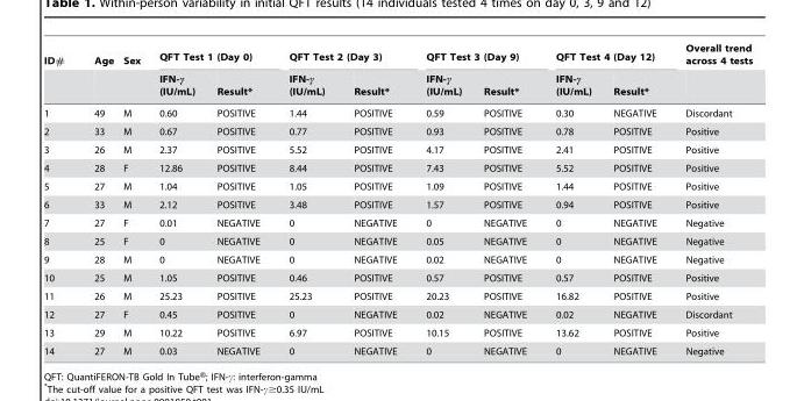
<table><thead><tr><td rowspan="2">ID#</td><td rowspan="2">Age</td><td rowspan="2">Sex</td><td colspan="2">QFT Test 1 (Day 0)</td><td colspan="2">QFT Test 2 (Day 3)</td><td colspan="2">QFT Test 3 (Day 9)</td><td colspan="2">QFT Test 4 (Day 12)</td><td rowspan="2">Overall trend across 4 tests</td></tr><tr><td>IFN-γ (IU/mL)</td><td>Result*</td><td>IFN-γ (IU/mL)</td><td>Result*</td><td>IFN-γ (IU/mL)</td><td>Result*</td><td>IFN-γ (IU/mL)</td><td>Result*</td></tr></thead><tbody><tr><td>1</td><td>49</td><td>M</td><td>0.60</td><td>POSITIVE</td><td>1.44</td><td>POSITIVE</td><td>0.59</td><td>POSITIVE</td><td>0.30</td><td>NEGATIVE</td><td>Discordant</td></tr><tr><td>2</td><td>33</td><td>M</td><td>0.67</td><td>POSITIVE</td><td>0.77</td><td>POSITIVE</td><td>0.93</td><td>POSITIVE</td><td>0.78</td><td>POSITIVE</td><td>Positive</td></tr><tr><td>3</td><td>26</td><td>M</td><td>2.37</td><td>POSITIVE</td><td>5.52</td><td>POSITIVE</td><td>4.17</td><td>POSITIVE</td><td>2.41</td><td>POSITIVE</td><td>Positive</td></tr><tr><td>4</td><td>28</td><td>F</td><td>12.86</td><td>POSITIVE</td><td>8.44</td><td>POSITIVE</td><td>7.43</td><td>POSITIVE</td><td>5.52</td><td>POSITIVE</td><td>Positive</td></tr><tr><td>5</td><td>27</td><td>M</td><td>1.04</td><td>POSITIVE</td><td>1.05</td><td>POSITIVE</td><td>1.09</td><td>POSITIVE</td><td>1.44</td><td>POSITIVE</td><td>Positive</td></tr><tr><td>6</td><td>33</td><td>M</td><td>2.12</td><td>POSITIVE</td><td>3.48</td><td>POSITIVE</td><td>1.57</td><td>POSITIVE</td><td>0.94</td><td>POSITIVE</td><td>Positive</td></tr><tr><td>7</td><td>27</td><td>F</td><td>0.01</td><td>NEGATIVE</td><td>0</td><td>NEGATIVE</td><td>0</td><td>NEGATIVE</td><td>0</td><td>NEGATIVE</td><td>Negative</td></tr><tr><td>8</td><td>25</td><td>F</td><td>0</td><td>NEGATIVE</td><td>0</td><td>NEGATIVE</td><td>0.05</td><td>NEGATIVE</td><td>0</td><td>NEGATIVE</td><td>Negative</td></tr><tr><td>9</td><td>28</td><td>M</td><td>0</td><td>NEGATIVE</td><td>0</td><td>NEGATIVE</td><td>0.02</td><td>NEGATIVE</td><td>0</td><td>NEGATIVE</td><td>Negative</td></tr><tr><td>10</td><td>25</td><td>M</td><td>1.05</td><td>POSITIVE</td><td>0.46</td><td>POSITIVE</td><td>0.57</td><td>POSITIVE</td><td>0.57</td><td>POSITIVE</td><td>Positive</td></tr><tr><td>11</td><td>26</td><td>M</td><td>25.23</td><td>POSITIVE</td><td>25.23</td><td>POSITIVE</td><td>20.23</td><td>POSITIVE</td><td>16.82</td><td>POSITIVE</td><td>Positive</td></tr><tr><td>12</td><td>27</td><td>F</td><td>0.45</td><td>POSITIVE</td><td>0</td><td>NEGATIVE</td><td>0.02</td><td>NEGATIVE</td><td>0.02</td><td>NEGATIVE</td><td>Discordant</td></tr><tr><td>13</td><td>29</td><td>M</td><td>10.22</td><td>POSITIVE</td><td>6.97</td><td>POSITIVE</td><td>10.15</td><td>POSITIVE</td><td>13.62</td><td>POSITIVE</td><td>Positive</td></tr><tr><td>14</td><td>27</td><td>M</td><td>0.03</td><td>NEGATIVE</td><td>0</td><td>NEGATIVE</td><td>0</td><td>NEGATIVE</td><td>0</td><td>NEGATIVE</td><td>Negative</td></tr></tbody></table>